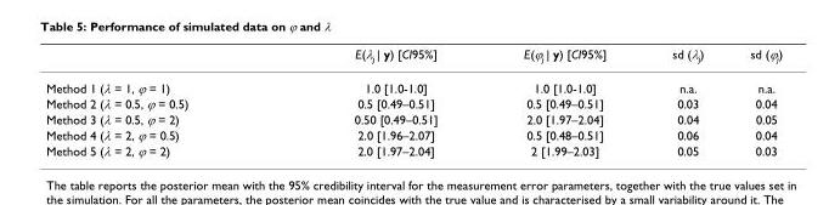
<table><thead><tr><td></td><td>E(λ<sub>j</sub> | y) [CI95%]</td><td>E(ϕ<sub>j</sub> | y) [CI95%]</td><td>sd (λ<sub>j</sub>)</td><td>sd (ϕ<sub>j</sub>)</td></tr></thead><tbody><tr><td>Method 1 (λ = 1, ϕ = 1)</td><td>1.0 [1.0-1.0]</td><td>1.0 [1.0-1.0]</td><td>n.a.</td><td>n.a.</td></tr><tr><td>Method 2 (λ = 0.5, ϕ = 0.5)</td><td>0.5 [0.49–0.51]</td><td>0.5 [0.49–0.51]</td><td>0.03</td><td>0.04</td></tr><tr><td>Method 3 (λ = 0.5, ϕ = 2)</td><td>0.50 [0.49–0.51]</td><td>2.0 [1.97–2.04]</td><td>0.04</td><td>0.05</td></tr><tr><td>Method 4 (λ = 2, ϕ = 0.5)</td><td>2.0 [1.96–2.07]</td><td>0.5 [0.48–0.51]</td><td>0.06</td><td>0.04</td></tr><tr><td>Method 5 (λ = 2, ϕ = 2)</td><td>2.0 [1.97–2.04]</td><td>2 [1.99–2.03]</td><td>0.05</td><td>0.03</td></tr></tbody></table>